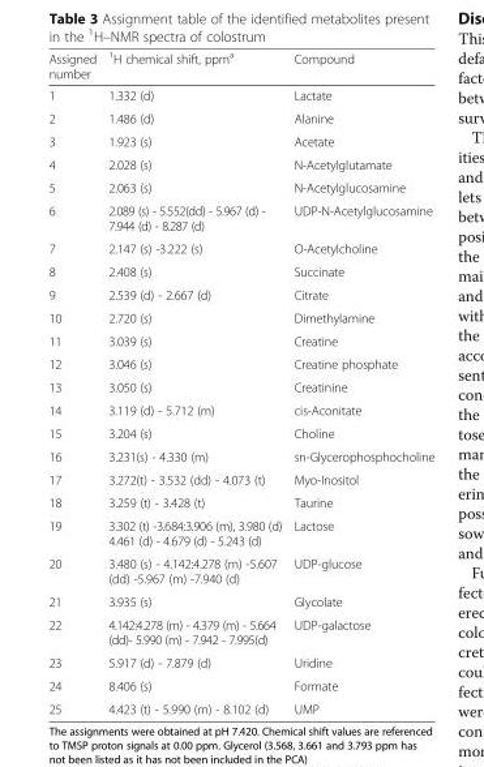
<table><thead><tr><td>Assigned number</td><td><sup>1</sup>H chemical shift, ppm<sup>a</sup></td><td>Compound</td></tr></thead><tbody><tr><td>1</td><td>1.332 (d)</td><td>Lactate</td></tr><tr><td>2</td><td>1.486 (d)</td><td>Alanine</td></tr><tr><td>3</td><td>1.923 (s)</td><td>Acetate</td></tr><tr><td>4</td><td>2.028 (s)</td><td>N-Acetylglutamate</td></tr><tr><td>5</td><td>2.063 (s)</td><td>N-Acetylglucosamine</td></tr><tr><td>6</td><td>2.089 (s) - 5.552(dd) - 5.967 (d) - 7.944 (d) - 8.287 (d)</td><td>UDP-N-Acetylglucosamine</td></tr><tr><td>7</td><td>2.147 (s) -3.222 (s)</td><td>O-Acetylcholine</td></tr><tr><td>8</td><td>2.408 (s)</td><td>Succinate</td></tr><tr><td>9</td><td>2.539 (d) - 2.667 (d)</td><td>Citrate</td></tr><tr><td>10</td><td>2.720 (s)</td><td>Dimethylamine</td></tr><tr><td>11</td><td>3.039 (s)</td><td>Creatine</td></tr><tr><td>12</td><td>3.046 (s)</td><td>Creatine phosphate</td></tr><tr><td>13</td><td>3.050 (s)</td><td>Creatinine</td></tr><tr><td>14</td><td>3.119 (d) - 5.712 (m)</td><td>cis-Aconitate</td></tr><tr><td>15</td><td>3.204 (s)</td><td>Choline</td></tr><tr><td>16</td><td>3.231(s) - 4.330 (m)</td><td>sn-Glycerophosphocholine</td></tr><tr><td>17</td><td>3.272(t) - 3.532 (dd) - 4.073 (t)</td><td>Myo-Inositol</td></tr><tr><td>18</td><td>3.259 (t) - 3.428 (t)</td><td>Taurine</td></tr><tr><td>19</td><td>3.302 (t) -3.684:3.906 (m), 3.980 (d) 4.461 (d) - 4.679 (d) - 5.243 (d)</td><td>Lactose</td></tr><tr><td>20</td><td>3.480 (s) - 4.142:4.278 (m) -5.607 (dd) -5.967 (m) -7.940 (d)</td><td>UDP-glucose</td></tr><tr><td>21</td><td>3.935 (s)</td><td>Glycolate</td></tr><tr><td>22</td><td>4.142:4.278 (m) - 4.379 (m) - 5.664 (dd)- 5.990 (m) - 7.942 - 7.995(d)</td><td>UDP-galactose</td></tr><tr><td>23</td><td>5.917 (d) - 7.879 (d)</td><td>Uridine</td></tr><tr><td>24</td><td>8.406 (s)</td><td>Formate</td></tr><tr><td>25</td><td>4.423 (t) - 5.990 (m) - 8.102 (d)</td><td>UMP</td></tr></tbody></table>